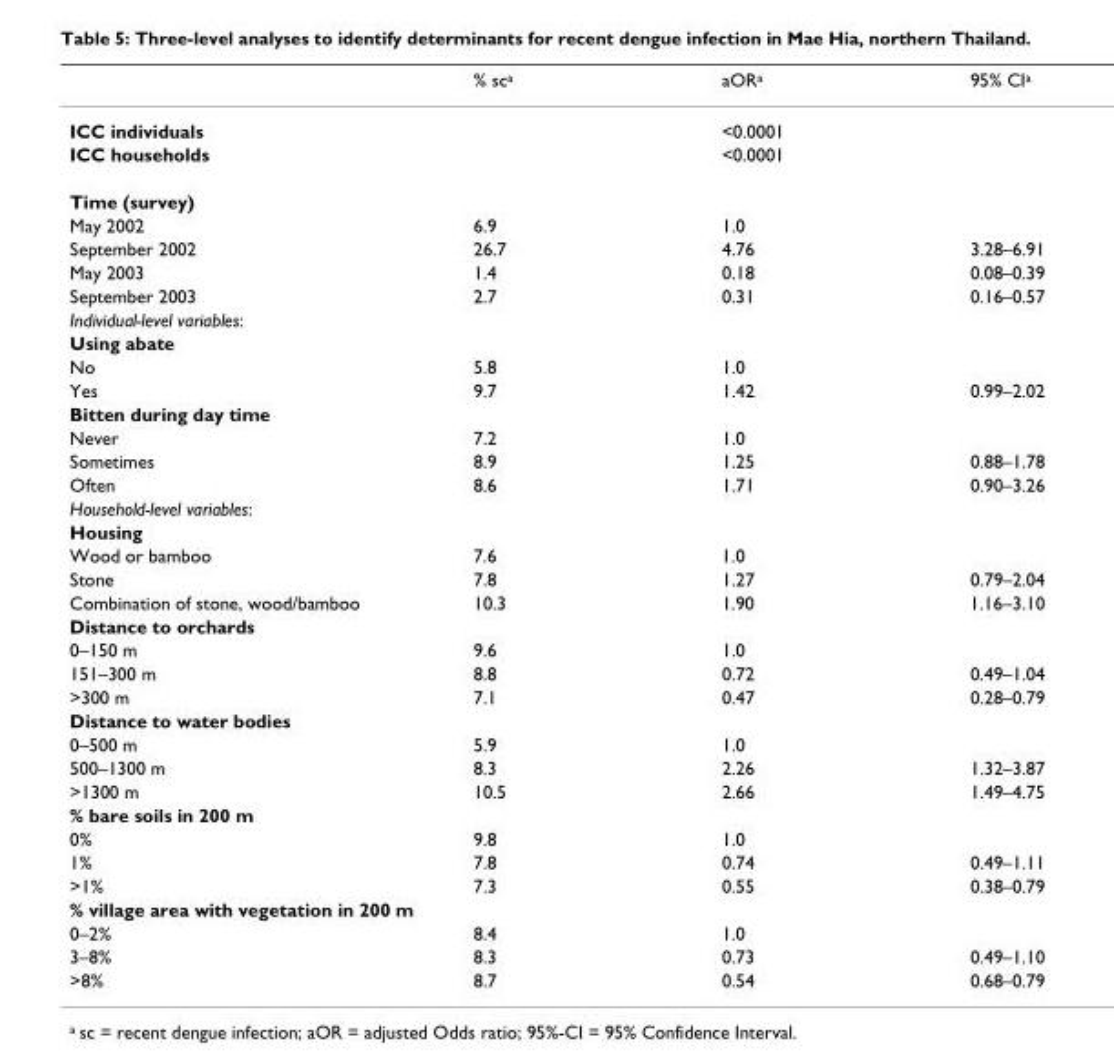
<table><thead><tr><td></td><td>% sc<sup>a</sup></td><td>aOR<sup>a</sup></td><td>95% CI<sup>a</sup></td></tr></thead><tbody><tr><td>ICC individuals</td><td></td><td>&lt;0.0001</td><td></td></tr><tr><td>ICC households</td><td></td><td>&lt;0.0001</td><td></td></tr><tr><td colspan="4">Time (survey)</td></tr><tr><td>May 2002</td><td>6.9</td><td>1.0</td><td></td></tr><tr><td>September 2002</td><td>26.7</td><td>4.76</td><td>3.28–6.91</td></tr><tr><td>May 2003</td><td>1.4</td><td>0.18</td><td>0.08–0.39</td></tr><tr><td>September 2003</td><td>2.7</td><td>0.31</td><td>0.16–0.57</td></tr><tr><td colspan="4">Individual-level variables:</td></tr><tr><td colspan="4">Using abate</td></tr><tr><td>No</td><td>5.8</td><td>1.0</td><td></td></tr><tr><td>Yes</td><td>9.7</td><td>1.42</td><td>0.99–2.02</td></tr><tr><td colspan="4">Bitten during day time</td></tr><tr><td>Never</td><td>7.2</td><td>1.0</td><td></td></tr><tr><td>Sometimes</td><td>8.9</td><td>1.25</td><td>0.88–1.78</td></tr><tr><td>Often</td><td>8.6</td><td>1.71</td><td>0.90–3.26</td></tr><tr><td colspan="4">Household-level variables:</td></tr><tr><td colspan="4">Housing</td></tr><tr><td>Wood or bamboo</td><td>7.6</td><td>1.0</td><td></td></tr><tr><td>Stone</td><td>7.8</td><td>1.27</td><td>0.79–2.04</td></tr><tr><td>Combination of stone, wood/bamboo</td><td>10.3</td><td>1.90</td><td>1.16–3.10</td></tr><tr><td colspan="4">Distance to orchards</td></tr><tr><td>0–150 m</td><td>9.6</td><td>1.0</td><td></td></tr><tr><td>151–300 m</td><td>8.8</td><td>0.72</td><td>0.49–1.04</td></tr><tr><td>&gt;300 m</td><td>7.1</td><td>0.47</td><td>0.28–0.79</td></tr><tr><td colspan="4">Distance to water bodies</td></tr><tr><td>0–500 m</td><td>5.9</td><td>1.0</td><td></td></tr><tr><td>500–1300 m</td><td>8.3</td><td>2.26</td><td>1.32–3.87</td></tr><tr><td>&gt;1300 m</td><td>10.5</td><td>2.66</td><td>1.49–4.75</td></tr><tr><td colspan="4">% bare soils in 200 m</td></tr><tr><td>0%</td><td>9.8</td><td>1.0</td><td></td></tr><tr><td>1%</td><td>7.8</td><td>0.74</td><td>0.49–1.11</td></tr><tr><td>&gt;1%</td><td>7.3</td><td>0.55</td><td>0.38–0.79</td></tr><tr><td colspan="4">% village area with vegetation in 200 m</td></tr><tr><td>0–2%</td><td>8.4</td><td>1.0</td><td></td></tr><tr><td>3–8%</td><td>8.3</td><td>0.73</td><td>0.49–1.10</td></tr><tr><td>&gt;8%</td><td>8.7</td><td>0.54</td><td>0.68–0.79</td></tr></tbody></table>